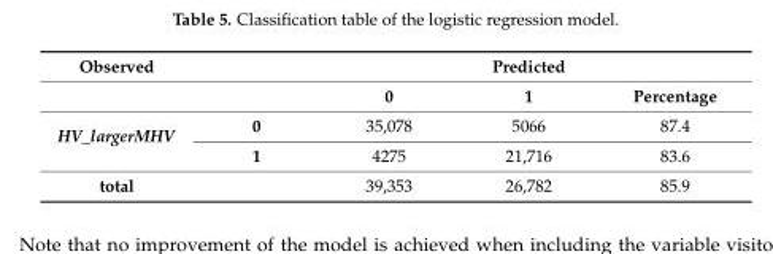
<table><thead><tr><td rowspan="2">Observed</td><td rowspan="2"></td><td rowspan="2">0</td><td rowspan="2">Predicted 1</td><td rowspan="2">Percentage</td></tr><tr></tr></thead><tbody><tr><td rowspan="2">HV_largerMHV</td><td>0</td><td>35,078</td><td>5066</td><td>87.4</td></tr><tr><td>1</td><td>4275</td><td>21,716</td><td>83.6</td></tr><tr><td>total</td><td></td><td>39,353</td><td>26,782</td><td>85.9</td></tr></tbody></table>